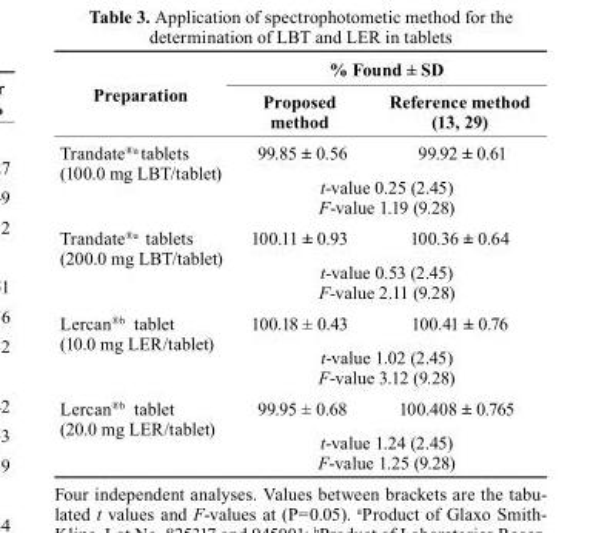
<table><thead><tr><td rowspan="2">Preparation</td><td colspan="2">% Found ± sD</td></tr><tr><td>Proposed method</td><td>reference method (13, 29)</td></tr></thead><tbody><tr><td rowspan="3">Trandate<sup>®</sup>a tablets (100.0 mg LBT/tablet)</td><td>99.85 ± 0.56</td><td>99.92 ± 0.61</td></tr><tr><td colspan="2">t-value 0.25 (2.45)</td></tr><tr><td colspan="2">F-value 1.19 (9.28)</td></tr><tr><td rowspan="3">Trandate<sup>®</sup>a tablets (200.0 mg LBT/tablet)</td><td>100.11 ± 0.93</td><td>100.36 ± 0.64</td></tr><tr><td colspan="2">t-value 0.53 (2.45)</td></tr><tr><td colspan="2">F-value 2.11 (9.28)</td></tr><tr><td rowspan="3">Lercan<sup>®</sup>b tablet (10.0 mg LER/tablet)</td><td>100.18 ± 0.43</td><td>100.41 ± 0.76</td></tr><tr><td colspan="2">t-value 1.02 (2.45)</td></tr><tr><td colspan="2">F-value 3.12 (9.28)</td></tr><tr><td rowspan="3">Lercan<sup>®</sup>b tablet (20.0 mg LER/tablet)</td><td>99.95 ± 0.68</td><td>100.408 ± 0.765</td></tr><tr><td colspan="2">t-value 1.24 (2.45)</td></tr><tr><td colspan="2">F-value 1.25 (9.28)</td></tr></tbody></table>